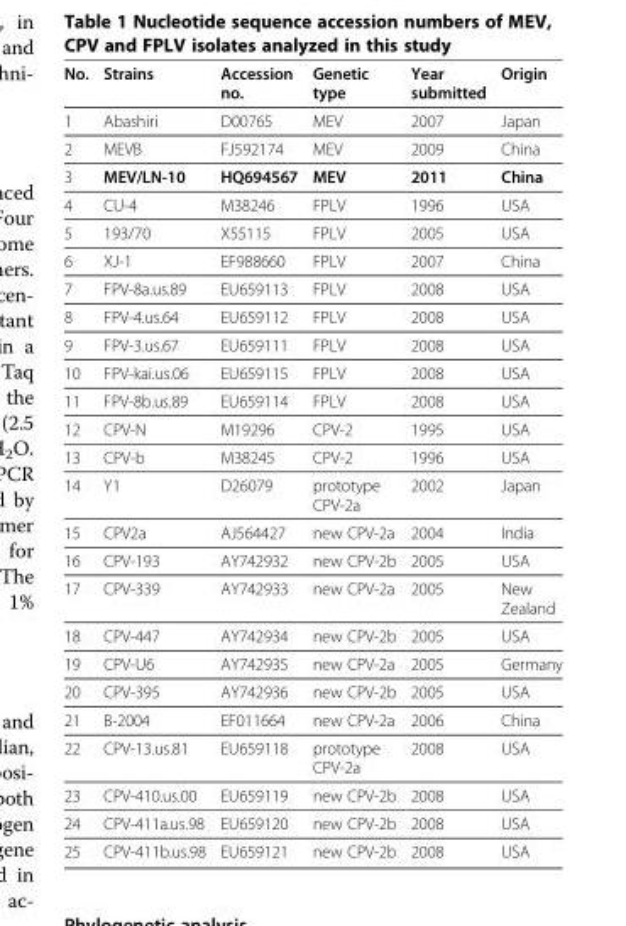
<table><thead><tr><td>No.</td><td>Strains</td><td>Accession no.</td><td>Genetic type</td><td>Year submitted</td><td>Origin</td></tr></thead><tbody><tr><td>1</td><td>Abashiri</td><td>D00765</td><td>MEV</td><td>2007</td><td>Japan</td></tr><tr><td>2</td><td>MEVB</td><td>FJ592174</td><td>MEV</td><td>2009</td><td>China</td></tr><tr><td>3</td><td>MEV/LN-10</td><td>HQ694567</td><td>MEV</td><td>2011</td><td>China</td></tr><tr><td>4</td><td>CU-4</td><td>M38246</td><td>FPLV</td><td>1996</td><td>USA</td></tr><tr><td>5</td><td>193/70</td><td>X55115</td><td>FPLV</td><td>2005</td><td>USA</td></tr><tr><td>6</td><td>XJ-1</td><td>EF988660</td><td>FPLV</td><td>2007</td><td>China</td></tr><tr><td>7</td><td>FPV-8a.us.89</td><td>EU659113</td><td>FPLV</td><td>2008</td><td>USA</td></tr><tr><td>8</td><td>FPV-4.us.64</td><td>EU659112</td><td>FPLV</td><td>2008</td><td>USA</td></tr><tr><td>9</td><td>FPV-3.us.67</td><td>EU659111</td><td>FPLV</td><td>2008</td><td>USA</td></tr><tr><td>10</td><td>FPV-kai.us.06</td><td>EU659115</td><td>FPLV</td><td>2008</td><td>USA</td></tr><tr><td>11</td><td>FPV-8b.us.89</td><td>EU659114</td><td>FPLV</td><td>2008</td><td>USA</td></tr><tr><td>12</td><td>CPV-N</td><td>M19296</td><td>CPV-2</td><td>1995</td><td>USA</td></tr><tr><td>13</td><td>CPV-b</td><td>M38245</td><td>CPV-2</td><td>1996</td><td>USA</td></tr><tr><td>14</td><td>Y1</td><td>D26079</td><td>prototype CPV-2a</td><td>2002</td><td>Japan</td></tr><tr><td>15</td><td>CPV2a</td><td>AJ564427</td><td>new CPV-2a</td><td>2004</td><td>India</td></tr><tr><td>16</td><td>CPV-193</td><td>AY742932</td><td>new CPV-2b</td><td>2005</td><td>USA</td></tr><tr><td>17</td><td>CPV-339</td><td>AY742933</td><td>new CPV-2a</td><td>2005</td><td>New Zealand</td></tr><tr><td>18</td><td>CPV-447</td><td>AY742934</td><td>new CPV-2b</td><td>2005</td><td>USA</td></tr><tr><td>19</td><td>CPV-U6</td><td>AY742935</td><td>new CPV-2a</td><td>2005</td><td>Germany</td></tr><tr><td>20</td><td>CPV-395</td><td>AY742936</td><td>new CPV-2b</td><td>2005</td><td>USA</td></tr><tr><td>21</td><td>B-2004</td><td>EF011664</td><td>new CPV-2a</td><td>2006</td><td>China</td></tr><tr><td>22</td><td>CPV-13.us.81</td><td>EU659118</td><td>prototype CPV-2a</td><td>2008</td><td>USA</td></tr><tr><td>23</td><td>CPV-410.us.00</td><td>EU659119</td><td>new CPV-2b</td><td>2008</td><td>USA</td></tr><tr><td>24</td><td>CPV-411a.us.98</td><td>EU659120</td><td>new CPV-2b</td><td>2008</td><td>USA</td></tr><tr><td>25</td><td>CPV-411b.us.98</td><td>EU659121</td><td>new CPV-2b</td><td>2008</td><td>USA</td></tr></tbody></table>